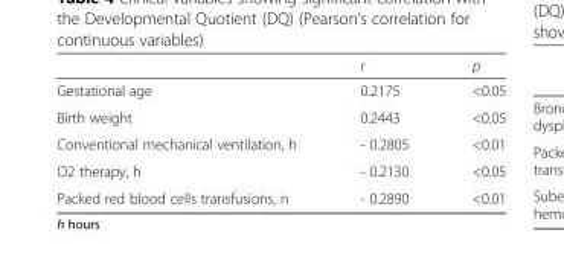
<table><thead><tr><td></td><td>r</td><td>p</td></tr></thead><tbody><tr><td>Gestational age</td><td>0.2175</td><td>&lt;0.05</td></tr><tr><td>Birth weight</td><td>0.2443</td><td>&lt;0.05</td></tr><tr><td>Conventional mechanical ventilation, h</td><td>- 0.2805</td><td>&lt;0.01</td></tr><tr><td>O2 therapy, h</td><td>- 0.2130</td><td>&lt;0.05</td></tr><tr><td>Packed red blood cells transfusions, n</td><td>- 0.2890</td><td>&lt;0.01</td></tr></tbody></table>